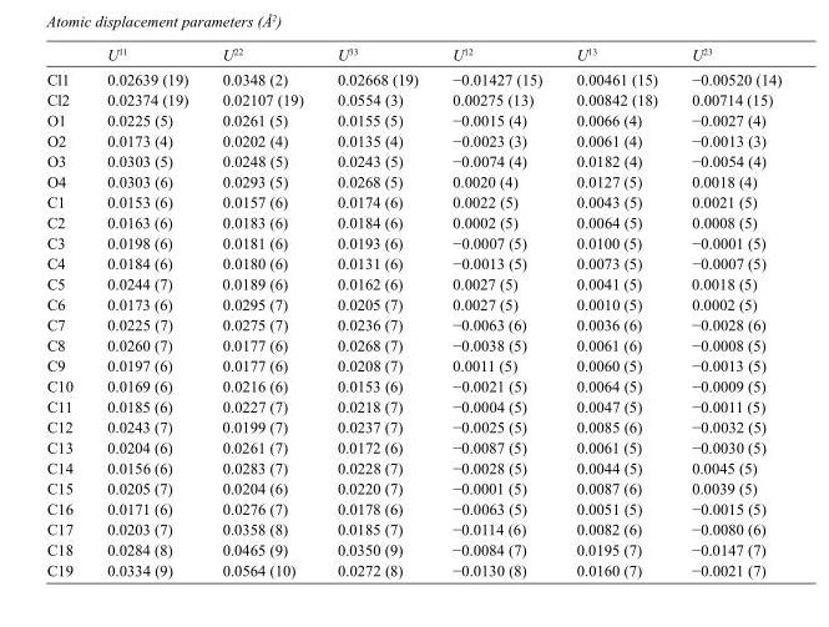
<table><thead><tr><td></td><td>U<sup>11</sup></td><td>U<sup>22</sup></td><td>U<sup>33</sup></td><td>U<sup>12</sup></td><td>U<sup>13</sup></td><td>U<sup>23</sup></td></tr></thead><tbody><tr><td>Cl1</td><td>0.02639 (19)</td><td>0.0348 (2)</td><td>0.02668 (19)</td><td>−0.01427 (15)</td><td>0.00461 (15)</td><td>−0.00520 (14)</td></tr><tr><td>Cl2</td><td>0.02374 (19)</td><td>0.02107 (19)</td><td>0.0554 (3)</td><td>0.00275 (13)</td><td>0.00842 (18)</td><td>0.00714 (15)</td></tr><tr><td>O1</td><td>0.0225 (5)</td><td>0.0261 (5)</td><td>0.0155 (5)</td><td>−0.0015 (4)</td><td>0.0066 (4)</td><td>−0.0027 (4)</td></tr><tr><td>O2</td><td>0.0173 (4)</td><td>0.0202 (4)</td><td>0.0135 (4)</td><td>−0.0023 (3)</td><td>0.0061 (4)</td><td>−0.0013 (3)</td></tr><tr><td>O3</td><td>0.0303 (5)</td><td>0.0248 (5)</td><td>0.0243 (5)</td><td>−0.0074 (4)</td><td>0.0182 (4)</td><td>−0.0054 (4)</td></tr><tr><td>O4</td><td>0.0303 (6)</td><td>0.0293 (5)</td><td>0.0268 (5)</td><td>0.0020 (4)</td><td>0.0127 (5)</td><td>0.0018 (4)</td></tr><tr><td>C1</td><td>0.0153 (6)</td><td>0.0157 (6)</td><td>0.0174 (6)</td><td>0.0022 (5)</td><td>0.0043 (5)</td><td>0.0021 (5)</td></tr><tr><td>C2</td><td>0.0163 (6)</td><td>0.0183 (6)</td><td>0.0184 (6)</td><td>0.0002 (5)</td><td>0.0064 (5)</td><td>0.0008 (5)</td></tr><tr><td>C3</td><td>0.0198 (6)</td><td>0.0181 (6)</td><td>0.0193 (6)</td><td>−0.0007 (5)</td><td>0.0100 (5)</td><td>−0.0001 (5)</td></tr><tr><td>C4</td><td>0.0184 (6)</td><td>0.0180 (6)</td><td>0.0131 (6)</td><td>−0.0013 (5)</td><td>0.0073 (5)</td><td>−0.0007 (5)</td></tr><tr><td>C5</td><td>0.0244 (7)</td><td>0.0189 (6)</td><td>0.0162 (6)</td><td>0.0027 (5)</td><td>0.0041 (5)</td><td>0.0018 (5)</td></tr><tr><td>C6</td><td>0.0173 (6)</td><td>0.0295 (7)</td><td>0.0205 (7)</td><td>0.0027 (5)</td><td>0.0010 (5)</td><td>0.0002 (5)</td></tr><tr><td>C7</td><td>0.0225 (7)</td><td>0.0275 (7)</td><td>0.0236 (7)</td><td>−0.0063 (6)</td><td>0.0036 (6)</td><td>−0.0028 (6)</td></tr><tr><td>C8</td><td>0.0260 (7)</td><td>0.0177 (6)</td><td>0.0268 (7)</td><td>−0.0038 (5)</td><td>0.0061 (6)</td><td>−0.0008 (5)</td></tr><tr><td>C9</td><td>0.0197 (6)</td><td>0.0177 (6)</td><td>0.0208 (7)</td><td>0.0011 (5)</td><td>0.0060 (5)</td><td>−0.0013 (5)</td></tr><tr><td>C10</td><td>0.0169 (6)</td><td>0.0216 (6)</td><td>0.0153 (6)</td><td>−0.0021 (5)</td><td>0.0064 (5)</td><td>−0.0009 (5)</td></tr><tr><td>C11</td><td>0.0185 (6)</td><td>0.0227 (7)</td><td>0.0218 (7)</td><td>−0.0004 (5)</td><td>0.0047 (5)</td><td>−0.0011 (5)</td></tr><tr><td>C12</td><td>0.0243 (7)</td><td>0.0199 (7)</td><td>0.0237 (7)</td><td>−0.0025 (5)</td><td>0.0085 (6)</td><td>−0.0032 (5)</td></tr><tr><td>C13</td><td>0.0204 (6)</td><td>0.0261 (7)</td><td>0.0172 (6)</td><td>−0.0087 (5)</td><td>0.0061 (5)</td><td>−0.0030 (5)</td></tr><tr><td>C14</td><td>0.0156 (6)</td><td>0.0283 (7)</td><td>0.0228 (7)</td><td>−0.0028 (5)</td><td>0.0044 (5)</td><td>0.0045 (5)</td></tr><tr><td>C15</td><td>0.0205 (7)</td><td>0.0204 (6)</td><td>0.0220 (7)</td><td>−0.0001 (5)</td><td>0.0087 (6)</td><td>0.0039 (5)</td></tr><tr><td>C16</td><td>0.0171 (6)</td><td>0.0276 (7)</td><td>0.0178 (6)</td><td>−0.0063 (5)</td><td>0.0051 (5)</td><td>−0.0015 (5)</td></tr><tr><td>C17</td><td>0.0203 (7)</td><td>0.0358 (8)</td><td>0.0185 (7)</td><td>−0.0114 (6)</td><td>0.0082 (6)</td><td>−0.0080 (6)</td></tr><tr><td>C18</td><td>0.0284 (8)</td><td>0.0465 (9)</td><td>0.0350 (9)</td><td>−0.0084 (7)</td><td>0.0195 (7)</td><td>−0.0147 (7)</td></tr><tr><td>C19</td><td>0.0334 (9)</td><td>0.0564 (10)</td><td>0.0272 (8)</td><td>−0.0130 (8)</td><td>0.0160 (7)</td><td>−0.0021 (7)</td></tr></tbody></table>